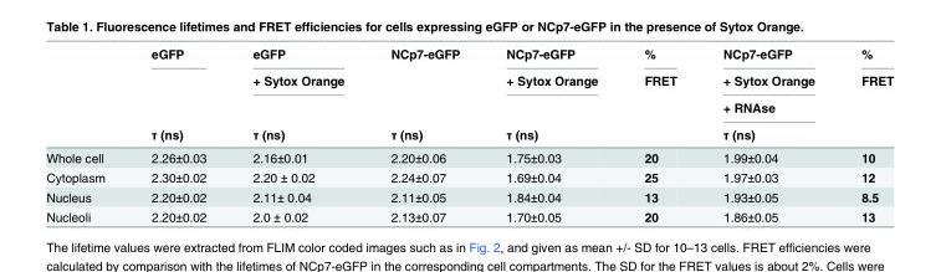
<table><thead><tr><td rowspan="4"></td><td rowspan="4">eGFP τ (ns)</td><td rowspan="4">eGFP + Sytox Orange τ (ns)</td><td rowspan="4">NCp7-eGFP τ (ns)</td><td rowspan="4">NCp7-eGFP + Sytox Orange τ (ns)</td><td rowspan="4">% FRET</td><td rowspan="4">NCp7-eGFP + Sytox Orange + RNAse τ (ns)</td><td rowspan="4">% FRET</td></tr><tr></tr><tr></tr><tr></tr></thead><tbody><tr><td>Whole cell</td><td>2.26±0.03</td><td>2.16±0.01</td><td>2.20±0.06</td><td>1.75±0.03</td><td>20</td><td>1.99±0.04</td><td>10</td></tr><tr><td>Cytoplasm</td><td>2.30±0.02</td><td>2.20 ± 0.02</td><td>2.24±0.07</td><td>1.69±0.04</td><td>25</td><td>1.97±0.03</td><td>12</td></tr><tr><td>Nucleus</td><td>2.20±0.02</td><td>2.11± 0.04</td><td>2.11±0.05</td><td>1.84±0.04</td><td>13</td><td>1.93±0.05</td><td>8.5</td></tr><tr><td>Nucleoli</td><td>2.20±0.02</td><td>2.0 ± 0.02</td><td>2.13±0.07</td><td>1.70±0.05</td><td>20</td><td>1.86±0.05</td><td>13</td></tr></tbody></table>